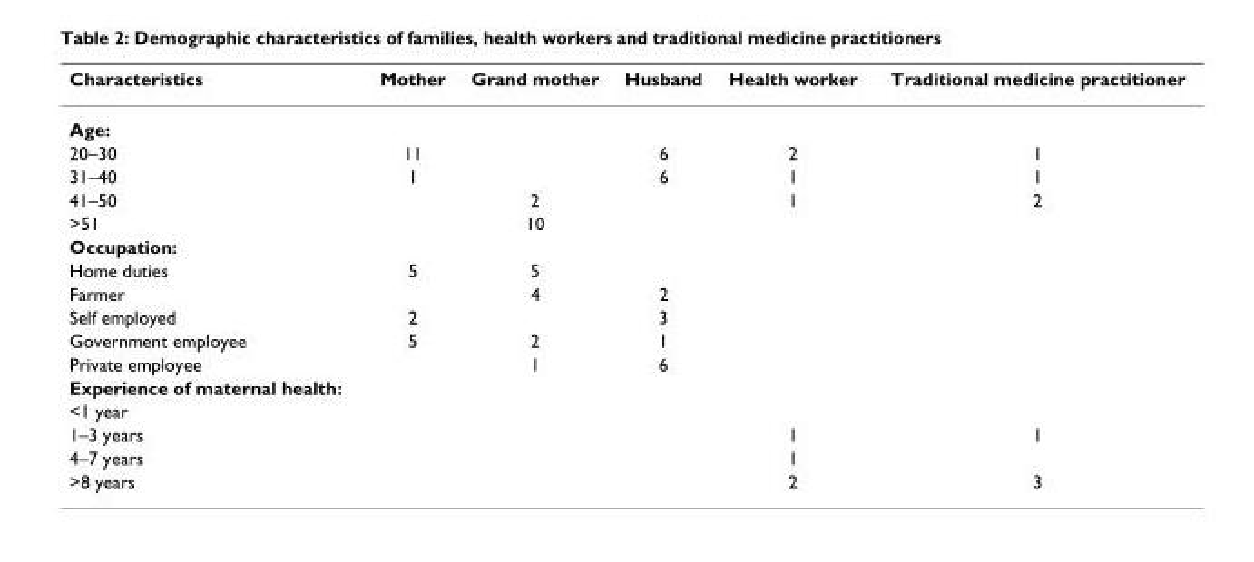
<table><thead><tr><td>Characteristics</td><td>Mother</td><td>Grand mother</td><td>Husband</td><td>Health worker</td><td>Traditional medicine practitioner</td></tr></thead><tbody><tr><td colspan="6">Age:</td></tr><tr><td>20–30</td><td>11</td><td></td><td>6</td><td>2</td><td>1</td></tr><tr><td>31–40</td><td>1</td><td></td><td>6</td><td>1</td><td>1</td></tr><tr><td>41–50</td><td></td><td>2</td><td></td><td>1</td><td>2</td></tr><tr><td>&gt;51</td><td></td><td>10</td><td></td><td></td><td></td></tr><tr><td colspan="6">Occupation:</td></tr><tr><td>Home duties</td><td>5</td><td>5</td><td></td><td></td><td></td></tr><tr><td>Farmer</td><td></td><td>4</td><td>2</td><td></td><td></td></tr><tr><td>Self employed</td><td>2</td><td></td><td>3</td><td></td><td></td></tr><tr><td>Government employee</td><td>5</td><td>2</td><td>1</td><td></td><td></td></tr><tr><td>Private employee</td><td></td><td>1</td><td>6</td><td></td><td></td></tr><tr><td colspan="6">Experience of maternal health:</td></tr><tr><td colspan="6">&lt;1 year</td></tr><tr><td>1–3 years</td><td></td><td></td><td></td><td>1</td><td>1</td></tr><tr><td>4–7 years</td><td></td><td></td><td></td><td>1</td><td></td></tr><tr><td>&gt;8 years</td><td></td><td></td><td></td><td>2</td><td>3</td></tr></tbody></table>